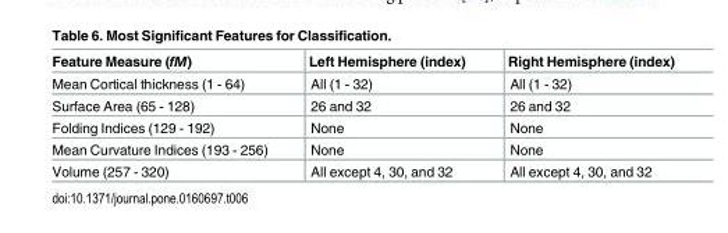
<table><thead><tr><td>Feature Measure (fM)</td><td>Left Hemisphere (index)</td><td>Right Hemisphere (index)</td></tr></thead><tbody><tr><td>Mean Cortical thickness (1 - 64)</td><td>All (1 - 32)</td><td>All (1 - 32)</td></tr><tr><td>Surface Area (65 - 128)</td><td>26 and 32</td><td>26 and 32</td></tr><tr><td>Folding Indices (129 - 192)</td><td>None</td><td>None</td></tr><tr><td>Mean Curvature Indices (193 - 256)</td><td>None</td><td>None</td></tr><tr><td>Volume (257 - 320)</td><td>All except 4, 30, and 32</td><td>All except 4, 30, and 32</td></tr></tbody></table>